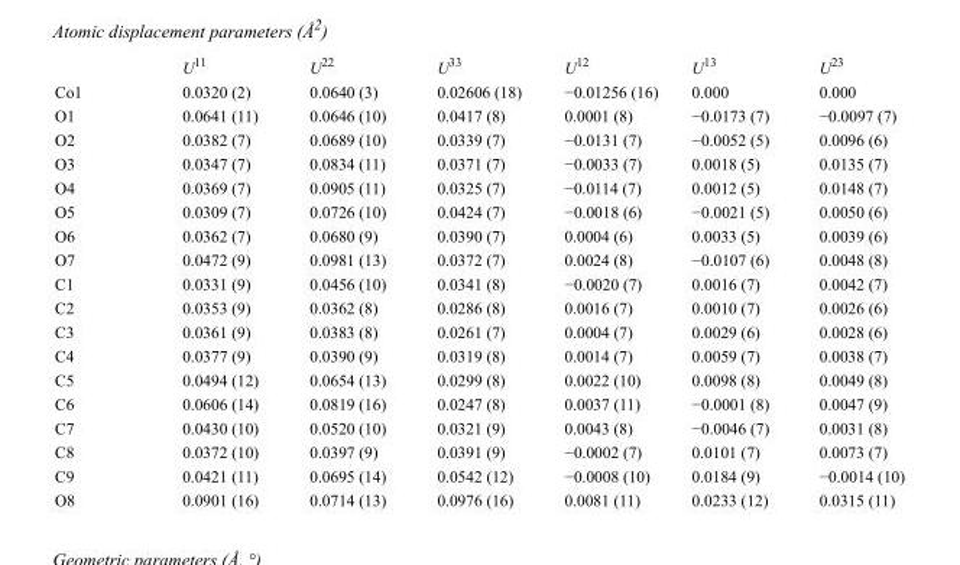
<table><thead><tr><td></td><td>U<sup>11</sup></td><td>U<sup>22</sup></td><td>U<sup>33</sup></td><td>U<sup>12</sup></td><td>U<sup>13</sup></td><td>U<sup>23</sup></td></tr></thead><tbody><tr><td>Co1</td><td>0.0320 (2)</td><td>0.0640 (3)</td><td>0.02606 (18)</td><td>−0.01256 (16)</td><td>0.000</td><td>0.000</td></tr><tr><td>O1</td><td>0.0641 (11)</td><td>0.0646 (10)</td><td>0.0417 (8)</td><td>0.0001 (8)</td><td>−0.0173 (7)</td><td>−0.0097 (7)</td></tr><tr><td>O2</td><td>0.0382 (7)</td><td>0.0689 (10)</td><td>0.0339 (7)</td><td>−0.0131 (7)</td><td>−0.0052 (5)</td><td>0.0096 (6)</td></tr><tr><td>O3</td><td>0.0347 (7)</td><td>0.0834 (11)</td><td>0.0371 (7)</td><td>−0.0033 (7)</td><td>0.0018 (5)</td><td>0.0135 (7)</td></tr><tr><td>O4</td><td>0.0369 (7)</td><td>0.0905 (11)</td><td>0.0325 (7)</td><td>−0.0114 (7)</td><td>0.0012 (5)</td><td>0.0148 (7)</td></tr><tr><td>O5</td><td>0.0309 (7)</td><td>0.0726 (10)</td><td>0.0424 (7)</td><td>−0.0018 (6)</td><td>−0.0021 (5)</td><td>0.0050 (6)</td></tr><tr><td>O6</td><td>0.0362 (7)</td><td>0.0680 (9)</td><td>0.0390 (7)</td><td>0.0004 (6)</td><td>0.0033 (5)</td><td>0.0039 (6)</td></tr><tr><td>O7</td><td>0.0472 (9)</td><td>0.0981 (13)</td><td>0.0372 (7)</td><td>0.0024 (8)</td><td>−0.0107 (6)</td><td>0.0048 (8)</td></tr><tr><td>C1</td><td>0.0331 (9)</td><td>0.0456 (10)</td><td>0.0341 (8)</td><td>−0.0020 (7)</td><td>0.0016 (7)</td><td>0.0042 (7)</td></tr><tr><td>C2</td><td>0.0353 (9)</td><td>0.0362 (8)</td><td>0.0286 (8)</td><td>0.0016 (7)</td><td>0.0010 (7)</td><td>0.0026 (6)</td></tr><tr><td>C3</td><td>0.0361 (9)</td><td>0.0383 (8)</td><td>0.0261 (7)</td><td>0.0004 (7)</td><td>0.0029 (6)</td><td>0.0028 (6)</td></tr><tr><td>C4</td><td>0.0377 (9)</td><td>0.0390 (9)</td><td>0.0319 (8)</td><td>0.0014 (7)</td><td>0.0059 (7)</td><td>0.0038 (7)</td></tr><tr><td>C5</td><td>0.0494 (12)</td><td>0.0654 (13)</td><td>0.0299 (8)</td><td>0.0022 (10)</td><td>0.0098 (8)</td><td>0.0049 (8)</td></tr><tr><td>C6</td><td>0.0606 (14)</td><td>0.0819 (16)</td><td>0.0247 (8)</td><td>0.0037 (11)</td><td>−0.0001 (8)</td><td>0.0047 (9)</td></tr><tr><td>C7</td><td>0.0430 (10)</td><td>0.0520 (10)</td><td>0.0321 (9)</td><td>0.0043 (8)</td><td>−0.0046 (7)</td><td>0.0031 (8)</td></tr><tr><td>C8</td><td>0.0372 (10)</td><td>0.0397 (9)</td><td>0.0391 (9)</td><td>−0.0002 (7)</td><td>0.0101 (7)</td><td>0.0073 (7)</td></tr><tr><td>C9</td><td>0.0421 (11)</td><td>0.0695 (14)</td><td>0.0542 (12)</td><td>−0.0008 (10)</td><td>0.0184 (9)</td><td>−0.0014 (10)</td></tr><tr><td>O8</td><td>0.0901 (16)</td><td>0.0714 (13)</td><td>0.0976 (16)</td><td>0.0081 (11)</td><td>0.0233 (12)</td><td>0.0315 (11)</td></tr></tbody></table>